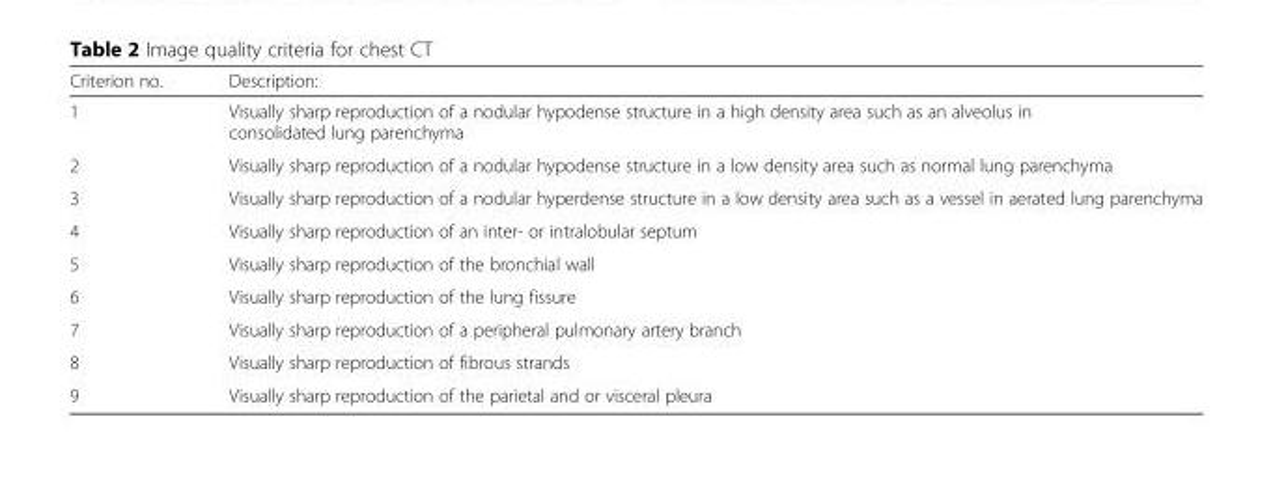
<table><thead><tr><td>Criterion no.</td><td>Description:</td></tr></thead><tbody><tr><td>1</td><td>Visually sharp reproduction of a nodular hypodense structure in a high density area such as an alveolus in consolidated lung parenchyma</td></tr><tr><td>2</td><td>Visually sharp reproduction of a nodular hypodense structure in a low density area such as normal lung parenchyma</td></tr><tr><td>3</td><td>Visually sharp reproduction of a nodular hyperdense structure in a low density area such as a vessel in aerated lung parenchyma</td></tr><tr><td>4</td><td>Visually sharp reproduction of an inter- or intralobular septum</td></tr><tr><td>5</td><td>Visually sharp reproduction of the bronchial wall</td></tr><tr><td>6</td><td>Visually sharp reproduction of the lung fissure</td></tr><tr><td>7</td><td>Visually sharp reproduction of a peripheral pulmonary artery branch</td></tr><tr><td>8</td><td>Visually sharp reproduction of fibrous strands</td></tr><tr><td>9</td><td>Visually sharp reproduction of the parietal and or visceral pleura</td></tr></tbody></table>